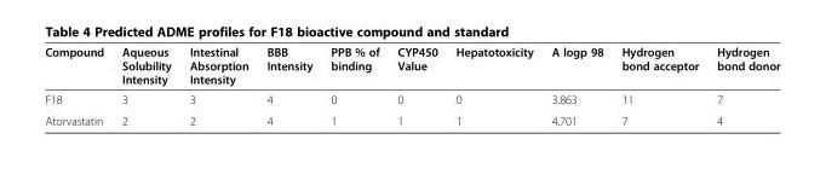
<table><thead><tr><td>Compound</td><td>Aqueous Solubility Intensity</td><td>Intestinal Absorption Intensity</td><td>BBB Intensity</td><td>PPB % of binding</td><td>CYP450 Value</td><td>Hepatotoxicity</td><td>A logp 98</td><td>Hydrogen bond acceptor</td><td>Hydrogen bond donor</td></tr></thead><tbody><tr><td>F18</td><td>3</td><td>3</td><td>4</td><td>0</td><td>0</td><td>0</td><td>3.863</td><td>11</td><td>7</td></tr><tr><td>Atorvastatin</td><td>2</td><td>2</td><td>4</td><td>1</td><td>1</td><td>1</td><td>4.701</td><td>7</td><td>4</td></tr></tbody></table>